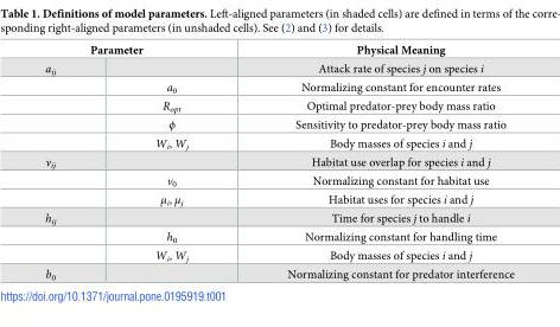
<table><thead><tr><td colspan="2">Parameter</td><td rowspan="2">Physical Meaning Attack rate of species j on species i</td></tr><tr><td>a<sub>ij</sub></td><td></td></tr></thead><tbody><tr><td></td><td>a<sub>0</sub></td><td>Normalizing constant for encounter rates</td></tr><tr><td></td><td>R<sub>opt</sub></td><td>Optimal predator-prey body mass ratio</td></tr><tr><td></td><td>ϕ</td><td>Sensitivity to predator-prey body mass ratio</td></tr><tr><td></td><td>W<sub>i</sub>, W<sub>j</sub></td><td>Body masses of species i and j</td></tr><tr><td rowspan="3">ν<sub>ij</sub></td><td></td><td>Habitat use overlap for species i and j</td></tr><tr><td>v<sub>0</sub></td><td>Normalizing constant for habitat use</td></tr><tr><td>μ<sub>i</sub>, μ<sub>j</sub></td><td>Habitat uses for species i and j</td></tr><tr><td rowspan="3">h<sub>ij</sub></td><td></td><td>Time for species j to handle i</td></tr><tr><td>h<sub>0</sub></td><td>Normalizing constant for handling time</td></tr><tr><td>W<sub>i</sub>, W<sub>j</sub></td><td>Body masses of species i and j</td></tr><tr><td>b<sub>0</sub></td><td></td><td>Normalizing constant for predator interference</td></tr></tbody></table>